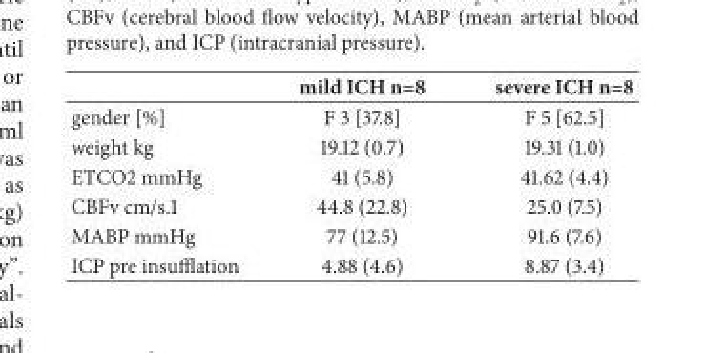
<table><thead><tr><td></td><td>mild ICH n=8</td><td>severe ICH n=8</td></tr></thead><tbody><tr><td>gender [%]</td><td>F 3 [37.8]</td><td>F 5 [62.5]</td></tr><tr><td>weight kg</td><td>19.12 (0.7)</td><td>19.31 (1.0)</td></tr><tr><td>ETCO2 mmHg</td><td>41 (5.8)</td><td>41.62 (4.4)</td></tr><tr><td>CBFv cm/s.1</td><td>44.8 (22.8)</td><td>25.0 (7.5)</td></tr><tr><td>MABP mmHg</td><td>77 (12.5)</td><td>91.6 (7.6)</td></tr><tr><td>ICP pre insufflation</td><td>4.88 (4.6)</td><td>8.87 (3.4)</td></tr></tbody></table>